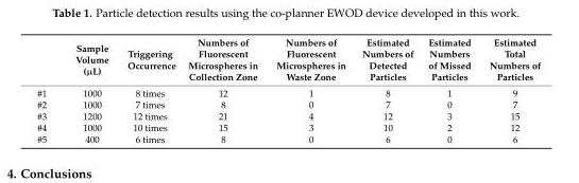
<table><thead><tr><td></td><td>Sample Volume (µL)</td><td>Triggering Occurrence</td><td>Numbers of Fluorescent Microspheres in Collection Zone</td><td>Numbers of Fluorescent Microspheres in Waste Zone</td><td>Estimated Numbers of Detected Particles</td><td>Estimated Numbers of Missed Particles</td><td>Estimated Total Numbers of Particles</td></tr></thead><tbody><tr><td>#1</td><td>1000</td><td>8 times</td><td>12</td><td>1</td><td>8</td><td>1</td><td>9</td></tr><tr><td>#2</td><td>1000</td><td>7 times</td><td>8</td><td>0</td><td>7</td><td>0</td><td>7</td></tr><tr><td>#3</td><td>1200</td><td>12 times</td><td>21</td><td>4</td><td>12</td><td>3</td><td>15</td></tr><tr><td>#4</td><td>1000</td><td>10 times</td><td>15</td><td>3</td><td>10</td><td>2</td><td>12</td></tr><tr><td>#5</td><td>400</td><td>6 times</td><td>8</td><td>0</td><td>6</td><td>0</td><td>6</td></tr></tbody></table>